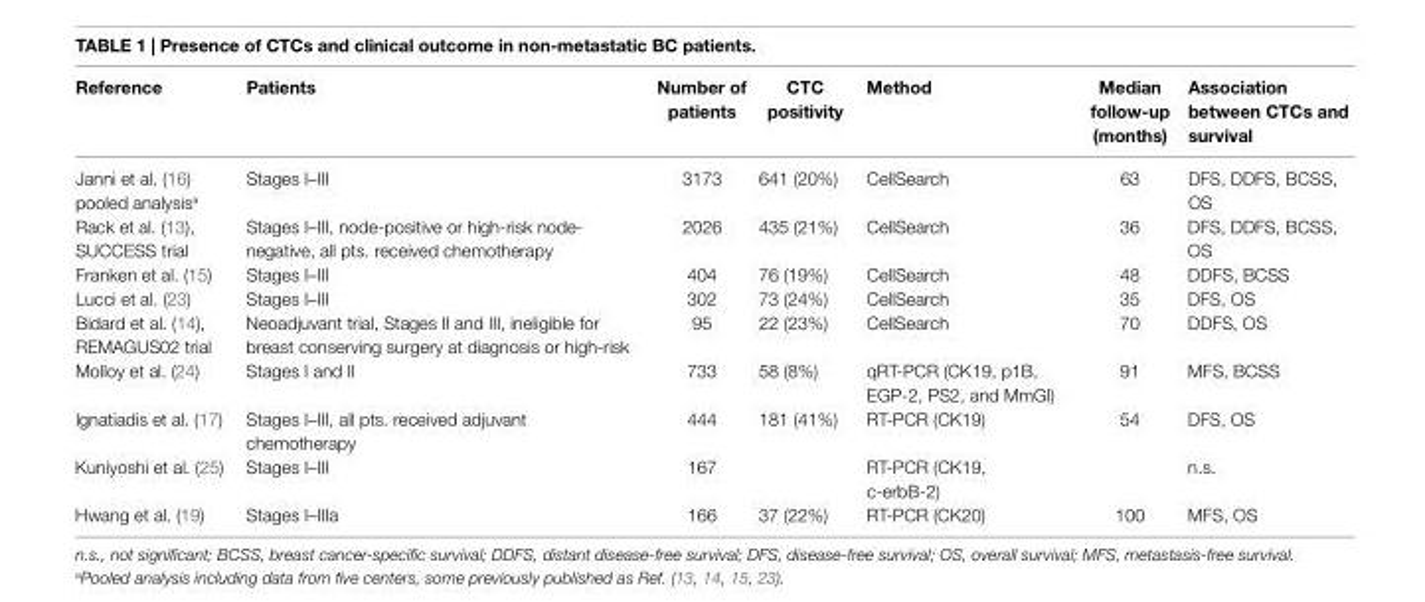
<table><thead><tr><td>Reference</td><td>Patients</td><td>Number of patients</td><td>CTC positivity</td><td>Method</td><td>Median follow-up (months)</td><td>Association between CTCs and survival</td></tr></thead><tbody><tr><td>Janni et al. (16) pooled analysis<sup>a</sup></td><td>Stages I–III</td><td>3173</td><td>641 (20%)</td><td>CellSearch</td><td>63</td><td>DFS, DDFS, BCSS, OS</td></tr><tr><td>Rack et al. (13), SUCCESS trial</td><td>Stages I–III, node-positive or high-risk node- negative, all pts. received chemotherapy</td><td>2026</td><td>435 (21%)</td><td>CellSearch</td><td>36</td><td>DFS, DDFS, BCSS, OS</td></tr><tr><td>Franken et al. (15)</td><td>Stages I–III</td><td>404</td><td>76 (19%)</td><td>CellSearch</td><td>48</td><td>DDFS, BCSS</td></tr><tr><td>Lucci et al. (23)</td><td>Stages I–III</td><td>302</td><td>73 (24%)</td><td>CellSearch</td><td>35</td><td>DFS, OS</td></tr><tr><td>Bidard et al. (14), REMAGUS02 trial</td><td>Neoadjuvant trial, Stages II and III, ineligible for breast conserving surgery at diagnosis or high-risk</td><td>95</td><td>22 (23%)</td><td>CellSearch</td><td>70</td><td>DDFS, OS</td></tr><tr><td>Molloy et al. (24)</td><td>Stages I and II</td><td>733</td><td>58 (8%)</td><td>qRT-PCR (CK19, p1B, EGP-2, PS2, and MmGI)</td><td>91</td><td>MFS, BCSS</td></tr><tr><td>Ignatiadis et al. (17)</td><td>Stages I–III, all pts. received adjuvant chemotherapy</td><td>444</td><td>181 (41%)</td><td>RT-PCR (CK19)</td><td>54</td><td>DFS, OS</td></tr><tr><td>Kuniyoshi et al. (25)</td><td>Stages I–III</td><td>167</td><td></td><td>RT-PCR (CK19, c-erbB-2)</td><td></td><td>n.s.</td></tr><tr><td>Hwang et al. (19)</td><td>Stages I–IIIa</td><td>166</td><td>37 (22%)</td><td>RT-PCR (CK20)</td><td>100</td><td>MFS, OS</td></tr></tbody></table>